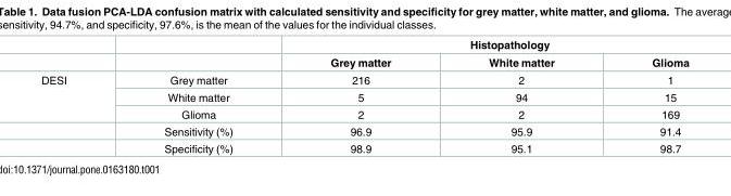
<table><thead><tr><td rowspan="2"></td><td rowspan="2"></td><td colspan="3">Histopathology</td></tr><tr><td>Grey matter</td><td>White matter</td><td>Glioma</td></tr></thead><tbody><tr><td rowspan="5">DESI</td><td>Grey matter</td><td>216</td><td>2</td><td>1</td></tr><tr><td>White matter</td><td>5</td><td>94</td><td>15</td></tr><tr><td>Glioma</td><td>2</td><td>2</td><td>169</td></tr><tr><td>Sensitivity (%)</td><td>96.9</td><td>95.9</td><td>91.4</td></tr><tr><td>Specificity (%)</td><td>98.9</td><td>95.1</td><td>98.7</td></tr></tbody></table>